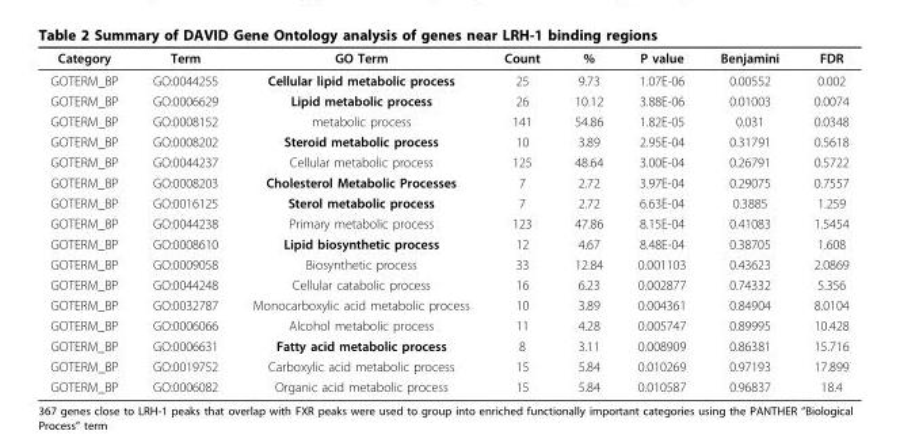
<table><thead><tr><td>Category</td><td>Term</td><td>GO Term</td><td>Count</td><td>%</td><td>P value</td><td>Benjamini</td><td>FDR</td></tr></thead><tbody><tr><td>GOTERM_BP</td><td>GO:0044255</td><td>Cellular lipid metabolic process</td><td>25</td><td>9.73</td><td>1.07E-06</td><td>0.00552</td><td>0.002</td></tr><tr><td>GOTERM_BP</td><td>GO:0006629</td><td>Lipid metabolic process</td><td>26</td><td>10.12</td><td>3.88E-06</td><td>0.01003</td><td>0.0074</td></tr><tr><td>GOTERM_BP</td><td>GO:0008152</td><td>metabolic process</td><td>141</td><td>54.86</td><td>1.82E-05</td><td>0.031</td><td>0.0348</td></tr><tr><td>GOTERM_BP</td><td>GO:0008202</td><td>Steroid metabolic process</td><td>10</td><td>3.89</td><td>2.95E-04</td><td>0.31791</td><td>0.5618</td></tr><tr><td>GOTERM_BP</td><td>GO:0044237</td><td>Cellular metabolic process</td><td>125</td><td>48.64</td><td>3.00E-04</td><td>0.26791</td><td>0.5722</td></tr><tr><td>GOTERM_BP</td><td>GO:0008203</td><td>Cholesterol Metabolic Processes</td><td>7</td><td>2.72</td><td>3.97E-04</td><td>0.29075</td><td>0.7557</td></tr><tr><td>GOTERM_BP</td><td>GO:0016125</td><td>Sterol metabolic process</td><td>7</td><td>2.72</td><td>6.63E-04</td><td>0.3885</td><td>1.259</td></tr><tr><td>GOTERM_BP</td><td>GO:0044238</td><td>Primary metabolic process</td><td>123</td><td>47.86</td><td>8.15E-04</td><td>0.41083</td><td>1.5454</td></tr><tr><td>GOTERM_BP</td><td>GO:0008610</td><td>Lipid biosynthetic process</td><td>12</td><td>4.67</td><td>8.48E-04</td><td>0.38705</td><td>1.608</td></tr><tr><td>GOTERM_BP</td><td>GO:0009058</td><td>Biosynthetic process</td><td>33</td><td>12.84</td><td>0.001103</td><td>0.43623</td><td>2.0869</td></tr><tr><td>GOTERM_BP</td><td>GO:0044248</td><td>Cellular catabolic process</td><td>16</td><td>6.23</td><td>0.002877</td><td>0.74332</td><td>5.356</td></tr><tr><td>GOTERM_BP</td><td>GO:0032787</td><td>Monocarboxylic acid metabolic process</td><td>10</td><td>3.89</td><td>0.004361</td><td>0.84904</td><td>8.0104</td></tr><tr><td>GOTERM_BP</td><td>GO:0006066</td><td>Alcohol metabolic process</td><td>11</td><td>4.28</td><td>0.005747</td><td>0.89995</td><td>10.428</td></tr><tr><td>GOTERM_BP</td><td>GO:0006631</td><td>Fatty acid metabolic process</td><td>8</td><td>3.11</td><td>0.008909</td><td>0.86381</td><td>15.716</td></tr><tr><td>GOTERM_BP</td><td>GO:0019752</td><td>Carboxylic acid metabolic process</td><td>15</td><td>5.84</td><td>0.010269</td><td>0.97193</td><td>17.899</td></tr><tr><td>GOTERM_BP</td><td>GO:0006082</td><td>Organic acid metabolic process</td><td>15</td><td>5.84</td><td>0.010587</td><td>0.96837</td><td>18.4</td></tr></tbody></table>